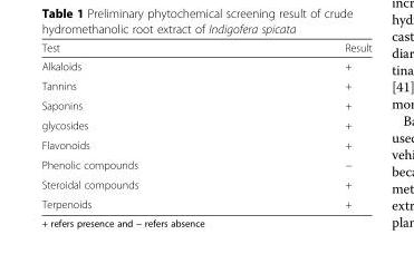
<table><thead><tr><td>Test</td><td>Result</td></tr></thead><tbody><tr><td>Alkaloids</td><td>+</td></tr><tr><td>Tannins</td><td>+</td></tr><tr><td>Saponins</td><td>+</td></tr><tr><td>glycosides</td><td>+</td></tr><tr><td>Flavonoids</td><td>+</td></tr><tr><td>Phenolic compounds</td><td>−</td></tr><tr><td>Steroidal compounds</td><td>+</td></tr><tr><td>Terpenoids</td><td>+</td></tr></tbody></table>